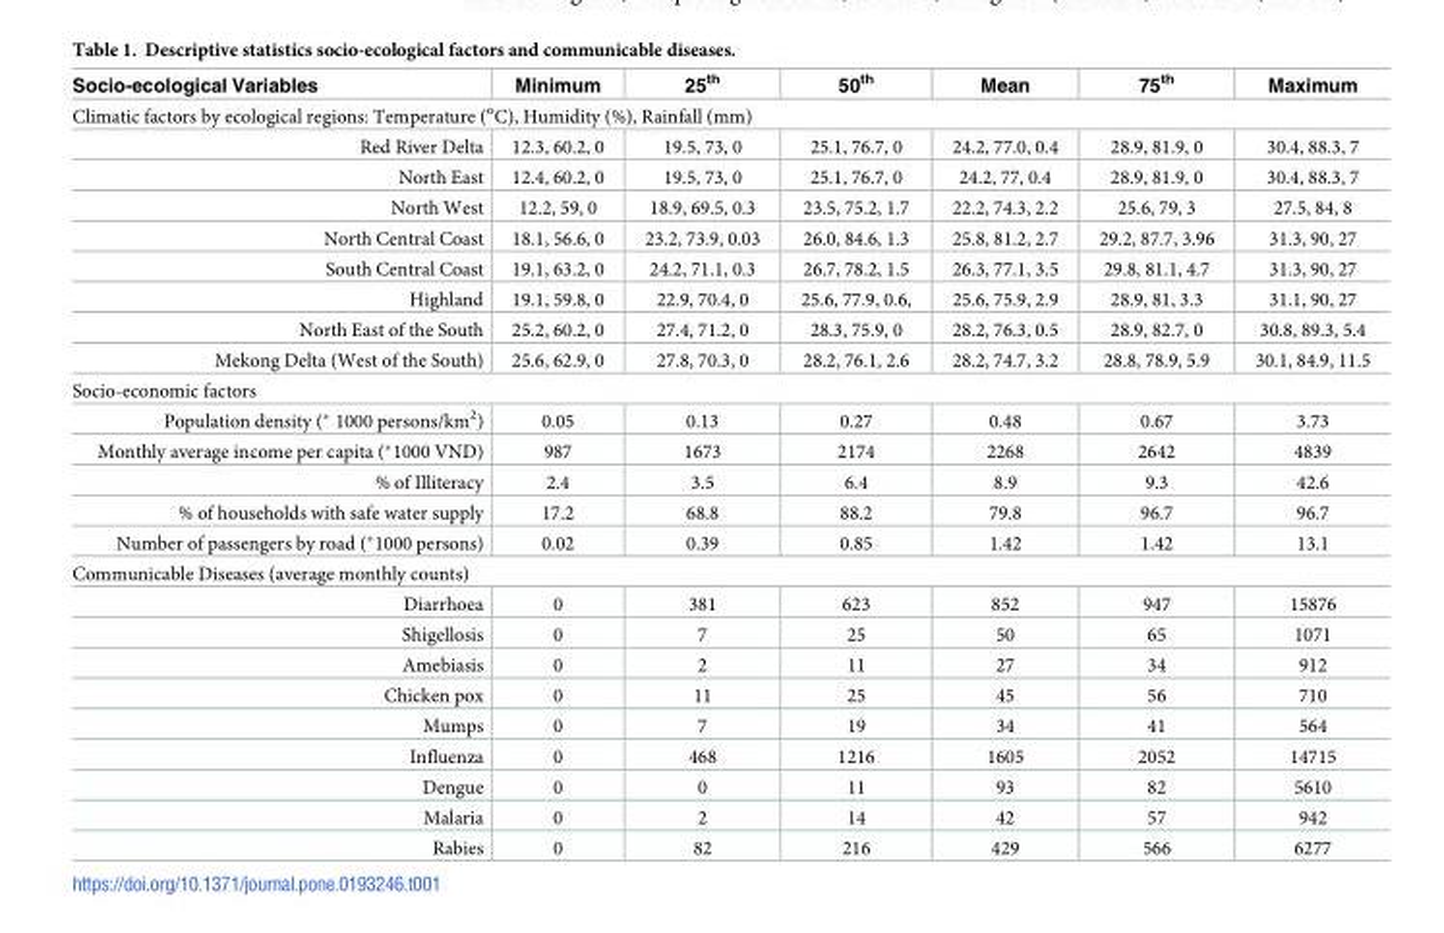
<table><thead><tr><td>Socio-ecological Variables</td><td>Minimum</td><td>25<sup>th</sup></td><td>50<sup>th</sup></td><td>Mean</td><td>75<sup>th</sup></td><td>Maximum</td></tr></thead><tbody><tr><td colspan="7">Climatic factors by ecological regions: Temperature (<sup>o</sup>C), Humidity (%), Rainfall (mm)</td></tr><tr><td>Red River Delta</td><td>12.3, 60.2, 0</td><td>19.5, 73, 0</td><td>25.1, 76.7, 0</td><td>24.2, 77.0, 0.4</td><td>28.9, 81.9, 0</td><td>30.4, 88.3, 7</td></tr><tr><td>North East</td><td>12.4, 60.2, 0</td><td>19.5, 73, 0</td><td>25.1, 76.7, 0</td><td>24.2, 77, 0.4</td><td>28.9, 81.9, 0</td><td>30.4, 88.3, 7</td></tr><tr><td>North West</td><td>12.2, 59, 0</td><td>18.9, 69.5, 0.3</td><td>23.5, 75.2, 1.7</td><td>22.2, 74.3, 2.2</td><td>25.6, 79, 3</td><td>27.5, 84, 8</td></tr><tr><td>North Central Coast</td><td>18.1, 56.6, 0</td><td>23.2, 73.9, 0.03</td><td>26.0, 84.6, 1.3</td><td>25.8, 81.2, 2.7</td><td>29.2, 87.7, 3.96</td><td>31.3, 90, 27</td></tr><tr><td>South Central Coast</td><td>19.1, 63.2, 0</td><td>24.2, 71.1, 0.3</td><td>26.7, 78.2, 1.5</td><td>26.3, 77.1, 3.5</td><td>29.8, 81.1, 4.7</td><td>31.3, 90, 27</td></tr><tr><td>Highland</td><td>19.1, 59.8, 0</td><td>22.9, 70.4, 0</td><td>25.6, 77.9, 0.6,</td><td>25.6, 75.9, 2.9</td><td>28.9, 81, 3.3</td><td>31.1, 90, 27</td></tr><tr><td>North East of the South</td><td>25.2, 60.2, 0</td><td>27.4, 71.2, 0</td><td>28.3, 75.9, 0</td><td>28.2, 76.3, 0.5</td><td>28.9, 82.7, 0</td><td>30.8, 89.3, 5.4</td></tr><tr><td>Mekong Delta (West of the South)</td><td>25.6, 62.9, 0</td><td>27.8, 70.3, 0</td><td>28.2, 76.1, 2.6</td><td>28.2, 74.7, 3.2</td><td>28.8, 78.9, 5.9</td><td>30.1, 84.9, 11.5</td></tr><tr><td colspan="7">Socio-economic factors</td></tr><tr><td>Population density (* 1000 persons/km<sup>2</sup>)</td><td>0.05</td><td>0.13</td><td>0.27</td><td>0.48</td><td>0.67</td><td>3.73</td></tr><tr><td>Monthly average income per capita (*1000 VND)</td><td>987</td><td>1673</td><td>2174</td><td>2268</td><td>2642</td><td>4839</td></tr><tr><td>% of Illiteracy</td><td>2.4</td><td>3.5</td><td>6.4</td><td>8.9</td><td>9.3</td><td>42.6</td></tr><tr><td>% of households with safe water supply</td><td>17.2</td><td>68.8</td><td>88.2</td><td>79.8</td><td>96.7</td><td>96.7</td></tr><tr><td>Number of passengers by road (*1000 persons)</td><td>0.02</td><td>0.39</td><td>0.85</td><td>1.42</td><td>1.42</td><td>13.1</td></tr><tr><td colspan="7">Communicable Diseases (average monthly counts)</td></tr><tr><td>Diarrhoea</td><td>0</td><td>381</td><td>623</td><td>852</td><td>947</td><td>15876</td></tr><tr><td>Shigellosis</td><td>0</td><td>7</td><td>25</td><td>50</td><td>65</td><td>1071</td></tr><tr><td>Amebiasis</td><td>0</td><td>2</td><td>11</td><td>27</td><td>34</td><td>912</td></tr><tr><td>Chicken pox</td><td>0</td><td>11</td><td>25</td><td>45</td><td>56</td><td>710</td></tr><tr><td>Mumps</td><td>0</td><td>7</td><td>19</td><td>34</td><td>41</td><td>564</td></tr><tr><td>Influenza</td><td>0</td><td>468</td><td>1216</td><td>1605</td><td>2052</td><td>14715</td></tr><tr><td>Dengue</td><td>0</td><td>0</td><td>11</td><td>93</td><td>82</td><td>5610</td></tr><tr><td>Malaria</td><td>0</td><td>2</td><td>14</td><td>42</td><td>57</td><td>942</td></tr><tr><td>Rabies</td><td>0</td><td>82</td><td>216</td><td>429</td><td>566</td><td>6277</td></tr></tbody></table>